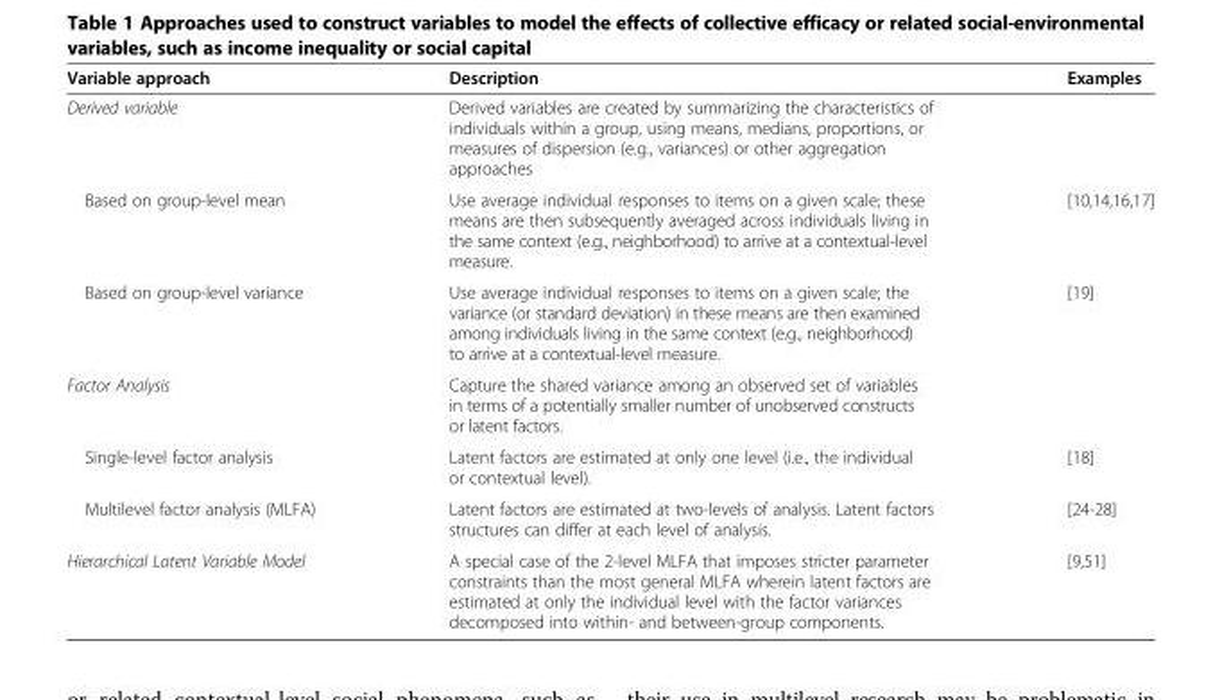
<table><thead><tr><td>Variable approach</td><td>Description</td><td>Examples</td></tr></thead><tbody><tr><td>Derived variable</td><td>Derived variables are created by summarizing the characteristics of individuals within a group, using means, medians, proportions, or measures of dispersion (e.g., variances) or other aggregation approaches</td><td></td></tr><tr><td>Based on group-level mean</td><td>Use average individual responses to items on a given scale; these means are then subsequently averaged across individuals living in the same context (e.g., neighborhood) to arrive at a contextual-level measure.</td><td>[10,14,16,17]</td></tr><tr><td>Based on group-level variance</td><td>Use average individual responses to items on a given scale; the variance (or standard deviation) in these means are then examined among individuals living in the same context (e.g., neighborhood) to arrive at a contextual-level measure.</td><td>[19]</td></tr><tr><td>Factor Analysis</td><td>Capture the shared variance among an observed set of variables in terms of a potentially smaller number of unobserved constructs or latent factors.</td><td></td></tr><tr><td>Single-level factor analysis</td><td>Latent factors are estimated at only one level (i.e., the individual or contextual level).</td><td>[18]</td></tr><tr><td>Multilevel factor analysis (MLFA)</td><td>Latent factors are estimated at two-levels of analysis. Latent factors structures can differ at each level of analysis.</td><td>[24-28]</td></tr><tr><td>Hierarchical Latent Variable Model</td><td>A special case of the 2-level MLFA that imposes stricter parameter constraints than the most general MLFA wherein latent factors are estimated at only the individual level with the factor variances decomposed into within- and between-group components.</td><td>[9,51]</td></tr></tbody></table>